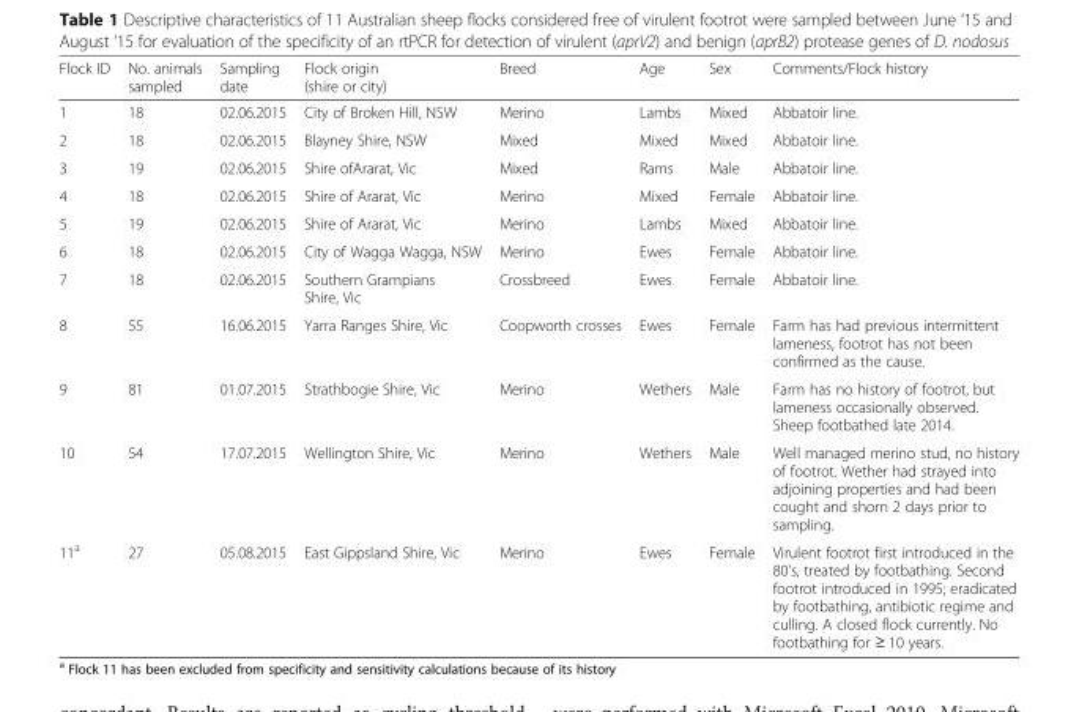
<table><thead><tr><td>Flock ID</td><td>No. animals sampled</td><td>Sampling date</td><td>Flock origin (shire or city)</td><td>Breed</td><td>Age</td><td>Sex</td><td>Comments/Flock history</td></tr></thead><tbody><tr><td>1</td><td>18</td><td>02.06.2015</td><td>City of Broken Hill, NSW</td><td>Merino</td><td>Lambs</td><td>Mixed</td><td>Abbatoir line.</td></tr><tr><td>2</td><td>18</td><td>02.06.2015</td><td>Blayney Shire, NSW</td><td>Mixed</td><td>Mixed</td><td>Mixed</td><td>Abbatoir line.</td></tr><tr><td>3</td><td>19</td><td>02.06.2015</td><td>Shire ofArarat, Vic</td><td>Mixed</td><td>Rams</td><td>Male</td><td>Abbatoir line.</td></tr><tr><td>4</td><td>18</td><td>02.06.2015</td><td>Shire of Ararat, Vic</td><td>Merino</td><td>Mixed</td><td>Female</td><td>Abbatoir line.</td></tr><tr><td>5</td><td>19</td><td>02.06.2015</td><td>Shire of Ararat, Vic</td><td>Merino</td><td>Lambs</td><td>Mixed</td><td>Abbatoir line.</td></tr><tr><td>6</td><td>18</td><td>02.06.2015</td><td>City of Wagga Wagga, NSW</td><td>Merino</td><td>Ewes</td><td>Female</td><td>Abbatoir line.</td></tr><tr><td>7</td><td>18</td><td>02.06.2015</td><td>Southern Grampians Shire, Vic</td><td>Crossbreed</td><td>Ewes</td><td>Female</td><td>Abbatoir line.</td></tr><tr><td>8</td><td>55</td><td>16.06.2015</td><td>Yarra Ranges Shire, Vic</td><td>Coopworth crosses</td><td>Ewes</td><td>Female</td><td>Farm has had previous intermittent lameness, footrot has not been confirmed as the cause.</td></tr><tr><td>9</td><td>81</td><td>01.07.2015</td><td>Strathbogie Shire, Vic</td><td>Merino</td><td>Wethers</td><td>Male</td><td>Farm has no history of footrot, but lameness occasionally observed. Sheep footbathed late 2014.</td></tr><tr><td>10</td><td>54</td><td>17.07.2015</td><td>Wellington Shire, Vic</td><td>Merino</td><td>Wethers</td><td>Male</td><td>Well managed merino stud, no history of footrot. Wether had strayed into adjoining properties and had been cought and shorn 2 days prior to sampling.</td></tr><tr><td>11<sup>a</sup></td><td>27</td><td>05.08.2015</td><td>East Gippsland Shire, Vic</td><td>Merino</td><td>Ewes</td><td>Female</td><td>Virulent footrot first introduced in the 80’s, treated by footbathing. Second footrot introduced in 1995; eradicated by footbathing, antibiotic regime and culling. A closed flock currently. No footbathing for ≥ 10 years.</td></tr></tbody></table>